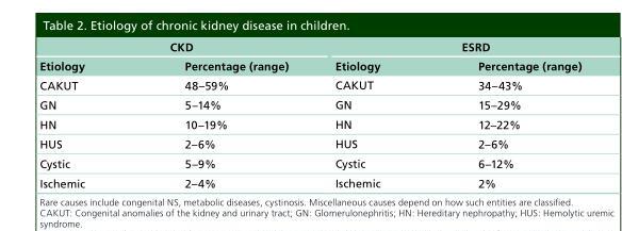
<table><thead><tr><td colspan="2">CKD</td><td colspan="2">ESRD</td></tr><tr><td>Etiology</td><td>Percentage (range)</td><td>Etiology</td><td>Percentage (range)</td></tr></thead><tbody><tr><td>CAKUT</td><td>48–59%</td><td>CAKUT</td><td>34–43%</td></tr><tr><td>GN</td><td>5–14%</td><td>GN</td><td>15–29%</td></tr><tr><td>HN</td><td>10–19%</td><td>HN</td><td>12–22%</td></tr><tr><td>HUS</td><td>2–6%</td><td>HUS</td><td>2–6%</td></tr><tr><td>Cystic</td><td>5–9%</td><td>Cystic</td><td>6–12%</td></tr><tr><td>Ischemic</td><td>2–4%</td><td>Ischemic</td><td>2%</td></tr></tbody></table>